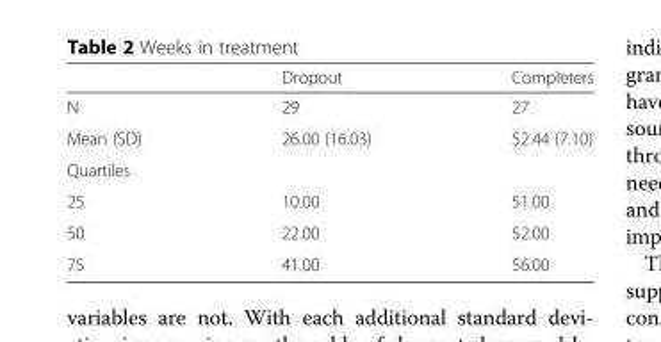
<table><thead><tr><td></td><td>Dropout</td><td>Completers</td></tr></thead><tbody><tr><td>N</td><td>29</td><td>27</td></tr><tr><td>Mean (SD)</td><td>26.00 (16.03)</td><td>52.44 (7.10)</td></tr><tr><td colspan="3">Quartiles</td></tr><tr><td>25</td><td>10.00</td><td>51.00</td></tr><tr><td>50</td><td>22.00</td><td>52.00</td></tr><tr><td>75</td><td>41.00</td><td>56.00</td></tr></tbody></table>